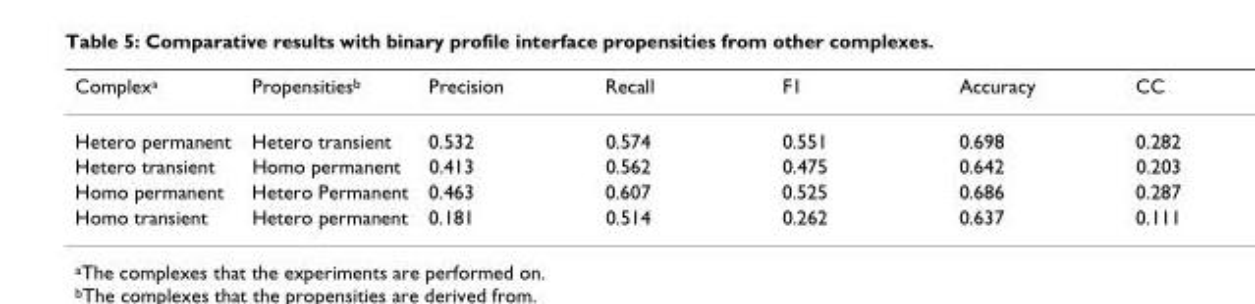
<table><thead><tr><td>Complex<sup>a</sup></td><td>Propensities<sup>b</sup></td><td>Precision</td><td>Recall</td><td>F1</td><td>Accuracy</td><td>CC</td></tr></thead><tbody><tr><td>Hetero permanent</td><td>Hetero transient</td><td>0.532</td><td>0.574</td><td>0.551</td><td>0.698</td><td>0.282</td></tr><tr><td>Hetero transient</td><td>Homo permanent</td><td>0.413</td><td>0.562</td><td>0.475</td><td>0.642</td><td>0.203</td></tr><tr><td>Homo permanent</td><td>Hetero Permanent</td><td>0.463</td><td>0.607</td><td>0.525</td><td>0.686</td><td>0.287</td></tr><tr><td>Homo transient</td><td>Hetero permanent</td><td>0.181</td><td>0.514</td><td>0.262</td><td>0.637</td><td>0.111</td></tr></tbody></table>